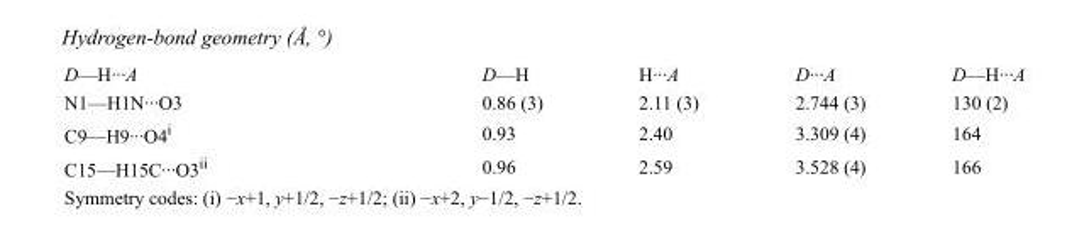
<table><tbody><tr><td>D—H···A</td><td>D—H</td><td>H···A</td><td>D···A</td><td>D—H···A</td></tr><tr><td>N1—H1N···O3</td><td>0.86 (3)</td><td>2.11 (3)</td><td>2.744 (3)</td><td>130 (2)</td></tr><tr><td>C9—H9···O4<sup>i</sup></td><td>0.93</td><td>2.40</td><td>3.309 (4)</td><td>164</td></tr><tr><td>C15—H15C···O3<sup>ii</sup></td><td>0.96</td><td>2.59</td><td>3.528 (4)</td><td>166</td></tr></tbody></table>